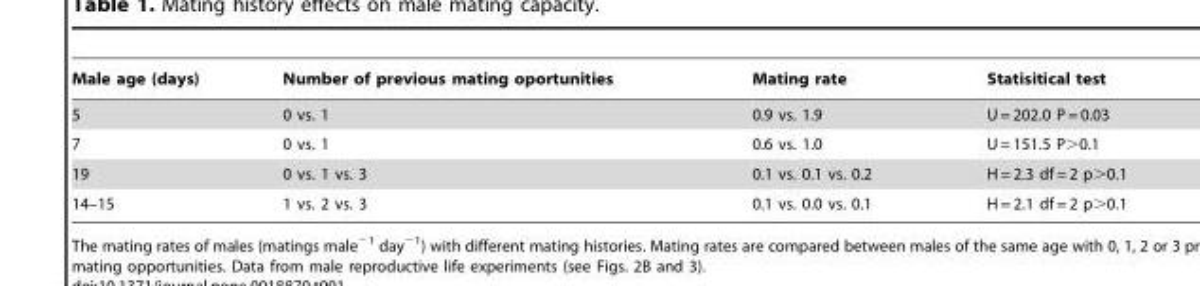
<table><thead><tr><td>Male age (days)</td><td>Number of previous mating oportunities</td><td>Mating rate</td><td>Statisitical test</td></tr></thead><tbody><tr><td>5</td><td>0 vs. 1</td><td>0.9 vs. 1.9</td><td>U = 202.0 P = 0.03</td></tr><tr><td>7</td><td>0 vs. 1</td><td>0.6 vs. 1.0</td><td>U = 151.5 P&gt;0.1</td></tr><tr><td>19</td><td>0 vs. 1 vs. 3</td><td>0.1 vs. 0.1 vs. 0.2</td><td>H = 2.3 df = 2 p&gt;0.1</td></tr><tr><td>14–15</td><td>1 vs. 2 vs. 3</td><td>0.1 vs. 0.0 vs. 0.1</td><td>H = 2.1 df = 2 p&gt;0.1</td></tr></tbody></table>